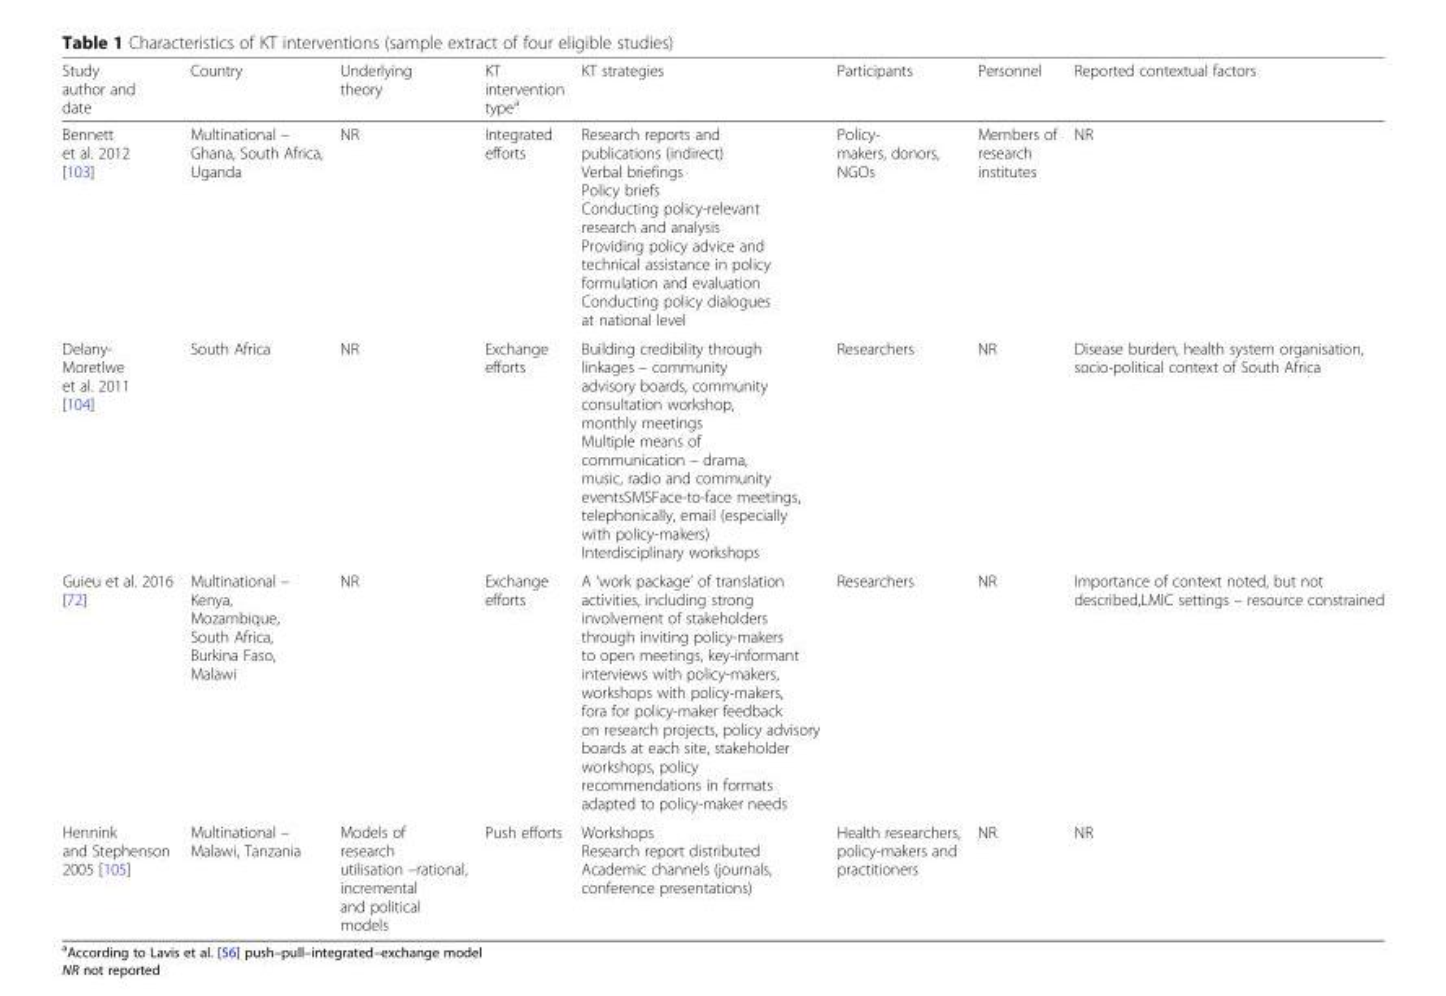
<table><thead><tr><td>Study author and date</td><td>Country</td><td>Underlying theory</td><td>KT intervention type<sup>a</sup></td><td>KT strategies</td><td>Participants</td><td>Personnel</td><td>Reported contextual factors</td></tr></thead><tbody><tr><td>Bennett et al. 2012 [103]</td><td>Multinational – Ghana, South Africa, Uganda</td><td>NR</td><td>Integrated efforts</td><td>Research reports and publications (indirect) Verbal briefings Policy briefs Conducting policy-relevant research and analysis Providing policy advice and technical assistance in policy formulation and evaluation Conducting policy dialogues at national level</td><td>Policy- makers, donors, NGOs</td><td>Members of research institutes</td><td>NR</td></tr><tr><td>Delany- Moretlwe et al. 2011 [104]</td><td>South Africa</td><td>NR</td><td>Exchange efforts</td><td>Building credibility through linkages – community advisory boards, community consultation workshop, monthly meetings Multiple means of communication – drama, music, radio and community eventsSMSFace-to-face meetings, telephonically, email (especially with policy-makers) Interdisciplinary workshops</td><td>Researchers</td><td>NR</td><td>Disease burden, health system organisation, socio-political context of South Africa</td></tr><tr><td>Guieu et al. 2016 [72]</td><td>Multinational – Kenya, Mozambique, South Africa, Burkina Faso, Malawi</td><td>NR</td><td>Exchange efforts</td><td>A ‘work package’ of translation activities, including strong involvement of stakeholders through inviting policy-makers to open meetings, key-informant interviews with policy-makers, workshops with policy-makers, fora for policy-maker feedback on research projects, policy advisory boards at each site, stakeholder workshops, policy recommendations in formats adapted to policy-maker needs</td><td>Researchers</td><td>NR</td><td>Importance of context noted, but not described,LMIC settings – resource constrained</td></tr><tr><td>Hennink and Stephenson 2005 [105]</td><td>Multinational – Malawi, Tanzania</td><td>Models of research utilisation –rational, incremental and political models</td><td>Push efforts</td><td>Workshops Research report distributed Academic channels (journals, conference presentations)</td><td>Health researchers, policy-makers and practitioners</td><td>NR</td><td>NR</td></tr></tbody></table>